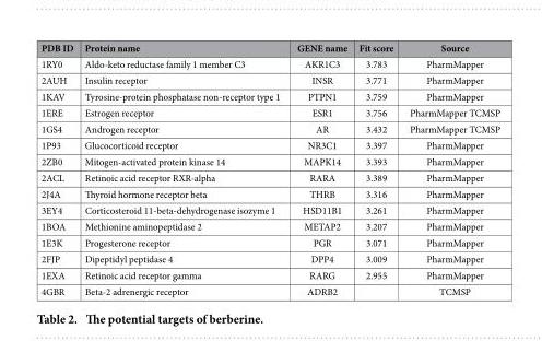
<table><thead><tr><td>PDB ID</td><td>Protein name</td><td>GENE name</td><td>Fit score</td><td>Source</td></tr></thead><tbody><tr><td>1RY0</td><td>Aldo-keto reductase family 1 member C3</td><td>AKR1C3</td><td>3.783</td><td>PharmMapper</td></tr><tr><td>2AUH</td><td>Insulin receptor</td><td>INSR</td><td>3.771</td><td>PharmMapper</td></tr><tr><td>1KAV</td><td>Tyrosine-protein phosphatase non-receptor type 1</td><td>PTPN1</td><td>3.759</td><td>PharmMapper</td></tr><tr><td>1ERE</td><td>Estrogen receptor</td><td>ESR1</td><td>3.756</td><td>PharmMapper TCMSP</td></tr><tr><td>1GS4</td><td>Androgen receptor</td><td>AR</td><td>3.432</td><td>PharmMapper TCMSP</td></tr><tr><td>1P93</td><td>Glucocorticoid receptor</td><td>NR3C1</td><td>3.397</td><td>PharmMapper</td></tr><tr><td>2ZB0</td><td>Mitogen-activated protein kinase 14</td><td>MAPK14</td><td>3.393</td><td>PharmMapper</td></tr><tr><td>2ACL</td><td>Retinoic acid receptor RXR-alpha</td><td>RARA</td><td>3.389</td><td>PharmMapper</td></tr><tr><td>2J4A</td><td>Thyroid hormone receptor beta</td><td>THRB</td><td>3.316</td><td>PharmMapper</td></tr><tr><td>3EY4</td><td>Corticosteroid 11-beta-dehydrogenase isozyme 1</td><td>HSD11B1</td><td>3.261</td><td>PharmMapper</td></tr><tr><td>1BOA</td><td>Methionine aminopeptidase 2</td><td>METAP2</td><td>3.207</td><td>PharmMapper</td></tr><tr><td>1E3K</td><td>Progesterone receptor</td><td>PGR</td><td>3.071</td><td>PharmMapper</td></tr><tr><td>2FJP</td><td>Dipeptidyl peptidase 4</td><td>DPP4</td><td>3.009</td><td>PharmMapper</td></tr><tr><td>1EXA</td><td>Retinoic acid receptor gamma</td><td>RARG</td><td>2.955</td><td>PharmMapper</td></tr><tr><td>4GBR</td><td>Beta-2 adrenergic receptor</td><td>ADRB2</td><td></td><td>TCMSP</td></tr></tbody></table>